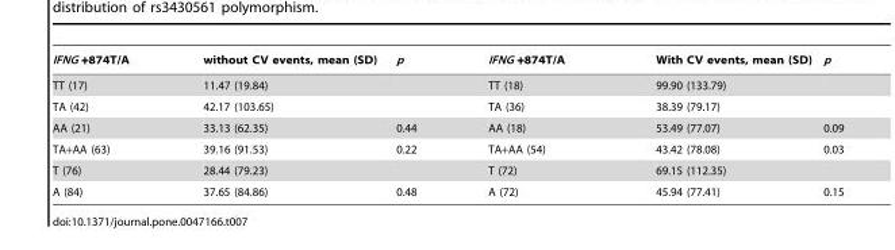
<table><thead><tr><td>IFNG +874T/A</td><td>without CV events, mean (SD)</td><td>p</td><td>IFNG +874T/A</td><td>With CV events, mean (SD)</td><td>p</td></tr></thead><tbody><tr><td>TT (17)</td><td>11.47 (19.84)</td><td></td><td>TT (18)</td><td>99.90 (133.79)</td><td></td></tr><tr><td>TA (42)</td><td>42.17 (103.65)</td><td></td><td>TA (36)</td><td>38.39 (79.17)</td><td></td></tr><tr><td>AA (21)</td><td>33.13 (62.35)</td><td>0.44</td><td>AA (18)</td><td>53.49 (77.07)</td><td>0.09</td></tr><tr><td>TA+AA (63)</td><td>39.16 (91.53)</td><td>0.22</td><td>TA+AA (54)</td><td>43.42 (78.08)</td><td>0.03</td></tr><tr><td>T (76)</td><td>28.44 (79.23)</td><td></td><td>T (72)</td><td>69.15 (112.35)</td><td></td></tr><tr><td>A (84)</td><td>37.65 (84.86)</td><td>0.48</td><td>A (72)</td><td>45.94 (77.41)</td><td>0.15</td></tr></tbody></table>